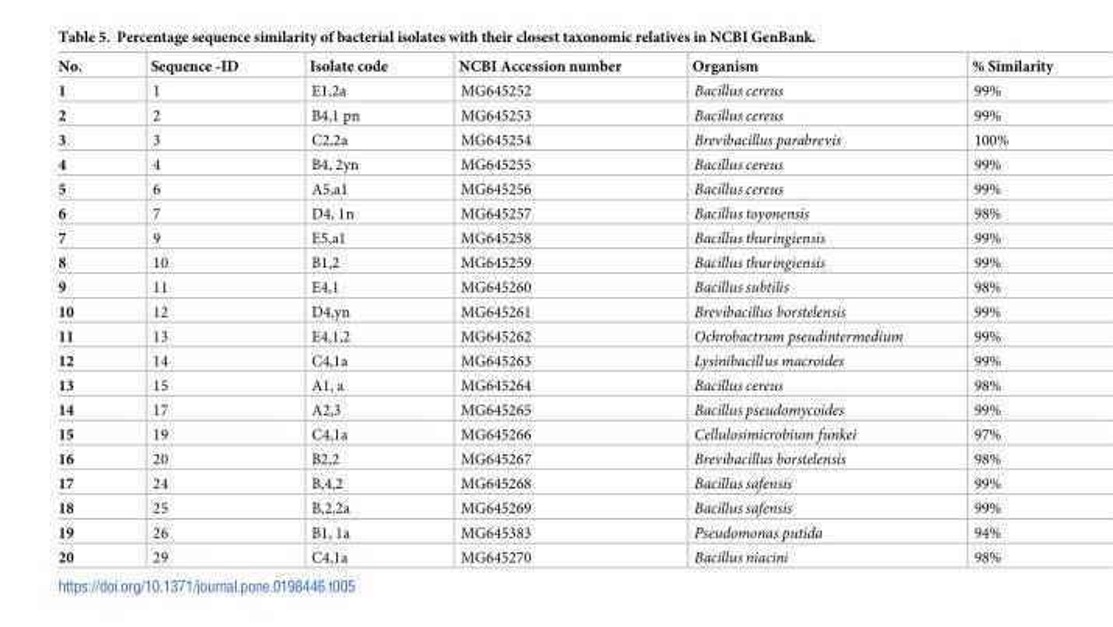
<table><thead><tr><td>No.</td><td>Sequence -ID</td><td>Isolate code</td><td>NCBI Accession number</td><td>Organism</td><td>% Similarity</td></tr></thead><tbody><tr><td>1</td><td>1</td><td>E1,2a</td><td>MG645252</td><td>Bacillus cereus</td><td>99%</td></tr><tr><td>2</td><td>2</td><td>B4,1 pn</td><td>MG645253</td><td>Bacillus cereus</td><td>99%</td></tr><tr><td>3</td><td>3</td><td>C2,2a</td><td>MG645254</td><td>Brevibacillus parabrevis</td><td>100%</td></tr><tr><td>4</td><td>4</td><td>B4, 2yn</td><td>MG645255</td><td>Bacillus cereus</td><td>99%</td></tr><tr><td>5</td><td>6</td><td>A5,a1</td><td>MG645256</td><td>Bacillus cereus</td><td>99%</td></tr><tr><td>6</td><td>7</td><td>D4, 1n</td><td>MG645257</td><td>Bacillus toyonensis</td><td>98%</td></tr><tr><td>7</td><td>9</td><td>E5,a1</td><td>MG645258</td><td>Bacillus thuringiensis</td><td>99%</td></tr><tr><td>8</td><td>10</td><td>B1,2</td><td>MG645259</td><td>Bacillus thuringiensis</td><td>99%</td></tr><tr><td>9</td><td>11</td><td>E4,1</td><td>MG645260</td><td>Bacillus subtilis</td><td>98%</td></tr><tr><td>10</td><td>12</td><td>D4,yn</td><td>MG645261</td><td>Brevibacillus borstelensis</td><td>99%</td></tr><tr><td>11</td><td>13</td><td>E4,1,2</td><td>MG645262</td><td>Ochrobactrum pseudintermedium</td><td>99%</td></tr><tr><td>12</td><td>14</td><td>C4,1a</td><td>MG645263</td><td>Lysinibacillus macroides</td><td>99%</td></tr><tr><td>13</td><td>15</td><td>A1, a</td><td>MG645264</td><td>Bacillus cereus</td><td>98%</td></tr><tr><td>14</td><td>17</td><td>A2,3</td><td>MG645265</td><td>Bacillus pseudomycoides</td><td>99%</td></tr><tr><td>15</td><td>19</td><td>C4,1a</td><td>MG645266</td><td>Cellulosimicrobium funkei</td><td>97%</td></tr><tr><td>16</td><td>20</td><td>B2,2</td><td>MG645267</td><td>Brevibacillus borstelensis</td><td>98%</td></tr><tr><td>17</td><td>24</td><td>B,4,2</td><td>MG645268</td><td>Bacillus safensis</td><td>99%</td></tr><tr><td>18</td><td>25</td><td>B,2,2a</td><td>MG645269</td><td>Bacillus safensis</td><td>99%</td></tr><tr><td>19</td><td>26</td><td>B1, 1a</td><td>MG645383</td><td>Pseudomonas putida</td><td>94%</td></tr><tr><td>20</td><td>29</td><td>C4,1a</td><td>MG645270</td><td>Bacillus niacini</td><td>98%</td></tr></tbody></table>